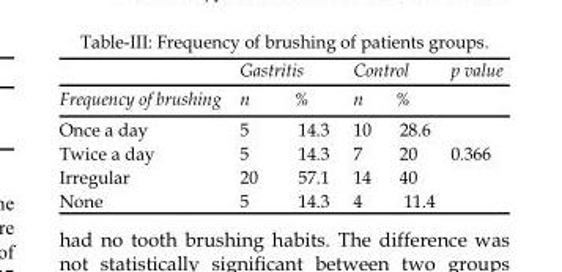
<table><thead><tr><td rowspan="2">Frequency of brushing</td><td colspan="2">Gastritis</td><td colspan="2">Control</td><td rowspan="2">p value</td></tr><tr><td>n</td><td>%</td><td>n</td><td>%</td></tr></thead><tbody><tr><td>Once a day</td><td>5</td><td>14.3</td><td>10</td><td>28.6</td><td></td></tr><tr><td>Twice a day</td><td>5</td><td>14.3</td><td>7</td><td>20</td><td>0.366</td></tr><tr><td>Irregular</td><td>20</td><td>57.1</td><td>14</td><td>40</td><td></td></tr><tr><td>None</td><td>5</td><td>14.3</td><td>4</td><td>11.4</td><td></td></tr></tbody></table>